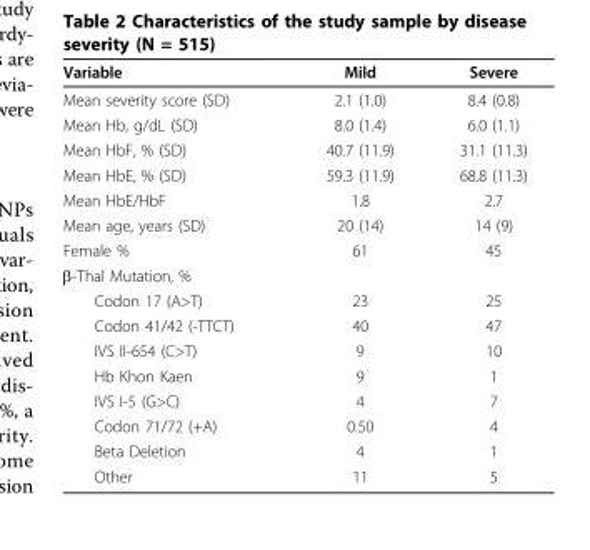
<table><thead><tr><td>Variable</td><td>Mild</td><td>Severe</td></tr></thead><tbody><tr><td>Mean severity score (SD)</td><td>2.1 (1.0)</td><td>8.4 (0.8)</td></tr><tr><td>Mean Hb, g/dL (SD)</td><td>8.0 (1.4)</td><td>6.0 (1.1)</td></tr><tr><td>Mean HbF, % (SD)</td><td>40.7 (11.9)</td><td>31.1 (11.3)</td></tr><tr><td>Mean HbE, % (SD)</td><td>59.3 (11.9)</td><td>68.8 (11.3)</td></tr><tr><td>Mean HbE/HbF</td><td>1.8</td><td>2.7</td></tr><tr><td>Mean age, years (SD)</td><td>20 (14)</td><td>14 (9)</td></tr><tr><td>Female %</td><td>61</td><td>45</td></tr><tr><td colspan="3">β-Thal Mutation, %</td></tr><tr><td>Codon 17 (A&gt;T)</td><td>23</td><td>25</td></tr><tr><td>Codon 41/42 (-TTCT)</td><td>40</td><td>47</td></tr><tr><td>IVS II-654 (C&gt;T)</td><td>9</td><td>10</td></tr><tr><td>Hb Khon Kaen</td><td>9</td><td>1</td></tr><tr><td>IVS I-5 (G&gt;C)</td><td>4</td><td>7</td></tr><tr><td>Codon 71/72 (+A)</td><td>0.50</td><td>4</td></tr><tr><td>Beta Deletion</td><td>4</td><td>1</td></tr><tr><td>Other</td><td>11</td><td>5</td></tr></tbody></table>